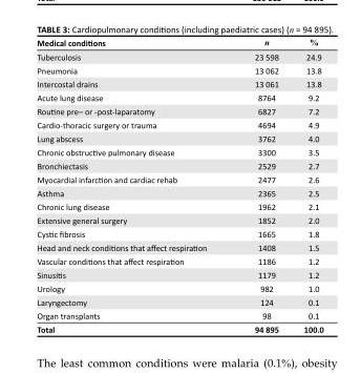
<table><thead><tr><td>Medical conditions</td><td>n</td><td>%</td></tr></thead><tbody><tr><td>Tuberculosis</td><td>23 598</td><td>24.9</td></tr><tr><td>Pneumonia</td><td>13 062</td><td>13.8</td></tr><tr><td>Intercostal drains</td><td>13 061</td><td>13.8</td></tr><tr><td>Acute lung disease</td><td>8764</td><td>9.2</td></tr><tr><td>Routine pre– or -post-laparatomy</td><td>6827</td><td>7.2</td></tr><tr><td>Cardio-thoracic surgery or trauma</td><td>4694</td><td>4.9</td></tr><tr><td>Lung abscess</td><td>3762</td><td>4.0</td></tr><tr><td>Chronic obstructive pulmonary disease</td><td>3300</td><td>3.5</td></tr><tr><td>Bronchiectasis</td><td>2529</td><td>2.7</td></tr><tr><td>Myocardial infarction and cardiac rehab</td><td>2477</td><td>2.6</td></tr><tr><td>Asthma</td><td>2365</td><td>2.5</td></tr><tr><td>Chronic lung disease</td><td>1962</td><td>2.1</td></tr><tr><td>Extensive general surgery</td><td>1852</td><td>2.0</td></tr><tr><td>Cystic fibrosis</td><td>1665</td><td>1.8</td></tr><tr><td>Head and neck conditions that affect respiration</td><td>1408</td><td>1.5</td></tr><tr><td>Vascular conditions that affect respiration</td><td>1186</td><td>1.2</td></tr><tr><td>Sinusitis</td><td>1179</td><td>1.2</td></tr><tr><td>Urology</td><td>982</td><td>1.0</td></tr><tr><td>Laryngectomy</td><td>124</td><td>0.1</td></tr><tr><td>Organ transplants</td><td>98</td><td>0.1</td></tr><tr><td>Total</td><td>94 895</td><td>100.0</td></tr></tbody></table>